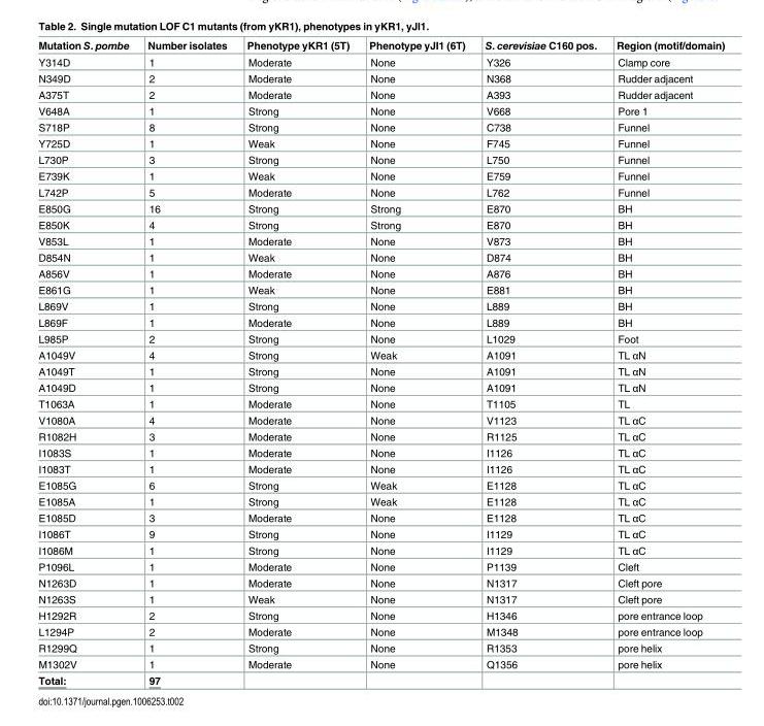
<table><thead><tr><td>Mutation S. pombe</td><td>Number isolates</td><td>Phenotype yKR1 (5T)</td><td>Phenotype yJI1 (6T)</td><td>S. cerevisiae C160 pos.</td><td>Region (motif/domain)</td></tr></thead><tbody><tr><td>Y314D</td><td>1</td><td>Moderate</td><td>None</td><td>Y326</td><td>Clamp core</td></tr><tr><td>N349D</td><td>2</td><td>Moderate</td><td>None</td><td>N368</td><td>Rudder adjacent</td></tr><tr><td>A375T</td><td>2</td><td>Moderate</td><td>None</td><td>A393</td><td>Rudder adjacent</td></tr><tr><td>V648A</td><td>1</td><td>Strong</td><td>None</td><td>V668</td><td>Pore 1</td></tr><tr><td>S718P</td><td>8</td><td>Strong</td><td>None</td><td>C738</td><td>Funnel</td></tr><tr><td>Y725D</td><td>1</td><td>Weak</td><td>None</td><td>F745</td><td>Funnel</td></tr><tr><td>L730P</td><td>3</td><td>Strong</td><td>None</td><td>L750</td><td>Funnel</td></tr><tr><td>E739K</td><td>1</td><td>Weak</td><td>None</td><td>E759</td><td>Funnel</td></tr><tr><td>L742P</td><td>5</td><td>Moderate</td><td>None</td><td>L762</td><td>Funnel</td></tr><tr><td>E850G</td><td>16</td><td>Strong</td><td>Strong</td><td>E870</td><td>BH</td></tr><tr><td>E850K</td><td>4</td><td>Strong</td><td>Strong</td><td>E870</td><td>BH</td></tr><tr><td>V853L</td><td>1</td><td>Moderate</td><td>None</td><td>V873</td><td>BH</td></tr><tr><td>D854N</td><td>1</td><td>Weak</td><td>None</td><td>D874</td><td>BH</td></tr><tr><td>A856V</td><td>1</td><td>Moderate</td><td>None</td><td>A876</td><td>BH</td></tr><tr><td>E861G</td><td>1</td><td>Weak</td><td>None</td><td>E881</td><td>BH</td></tr><tr><td>L869V</td><td>1</td><td>Strong</td><td>None</td><td>L889</td><td>BH</td></tr><tr><td>L869F</td><td>1</td><td>Moderate</td><td>None</td><td>L889</td><td>BH</td></tr><tr><td>L985P</td><td>2</td><td>Strong</td><td>None</td><td>L1029</td><td>Foot</td></tr><tr><td>A1049V</td><td>4</td><td>Strong</td><td>Weak</td><td>A1091</td><td>TL αN</td></tr><tr><td>A1049T</td><td>1</td><td>Strong</td><td>None</td><td>A1091</td><td>TL αN</td></tr><tr><td>A1049D</td><td>1</td><td>Strong</td><td>None</td><td>A1091</td><td>TL αN</td></tr><tr><td>T1063A</td><td>1</td><td>Moderate</td><td>None</td><td>T1105</td><td>TL</td></tr><tr><td>V1080A</td><td>4</td><td>Moderate</td><td>None</td><td>V1123</td><td>TL αC</td></tr><tr><td>R1082H</td><td>3</td><td>Moderate</td><td>None</td><td>R1125</td><td>TL αC</td></tr><tr><td>I1083S</td><td>1</td><td>Moderate</td><td>None</td><td>I1126</td><td>TL αC</td></tr><tr><td>I1083T</td><td>1</td><td>Moderate</td><td>None</td><td>I1126</td><td>TL αC</td></tr><tr><td>E1085G</td><td>6</td><td>Strong</td><td>Weak</td><td>E1128</td><td>TL αC</td></tr><tr><td>E1085A</td><td>1</td><td>Strong</td><td>Weak</td><td>E1128</td><td>TL αC</td></tr><tr><td>E1085D</td><td>3</td><td>Moderate</td><td>None</td><td>E1128</td><td>TL αC</td></tr><tr><td>I1086T</td><td>9</td><td>Strong</td><td>None</td><td>I1129</td><td>TL αC</td></tr><tr><td>I1086M</td><td>1</td><td>Strong</td><td>None</td><td>I1129</td><td>TL αC</td></tr><tr><td>P1096L</td><td>1</td><td>Moderate</td><td>None</td><td>P1139</td><td>Cleft</td></tr><tr><td>N1263D</td><td>1</td><td>Moderate</td><td>None</td><td>N1317</td><td>Cleft pore</td></tr><tr><td>N1263S</td><td>1</td><td>Weak</td><td>None</td><td>N1317</td><td>Cleft pore</td></tr><tr><td>H1292R</td><td>2</td><td>Strong</td><td>None</td><td>H1346</td><td>pore entrance loop</td></tr><tr><td>L1294P</td><td>2</td><td>Moderate</td><td>None</td><td>M1348</td><td>pore entrance loop</td></tr><tr><td>R1299Q</td><td>1</td><td>Strong</td><td>None</td><td>R1353</td><td>pore helix</td></tr><tr><td>M1302V</td><td>1</td><td>Moderate</td><td>None</td><td>Q1356</td><td>pore helix</td></tr><tr><td>Total:</td><td>97</td><td></td><td></td><td></td><td></td></tr></tbody></table>